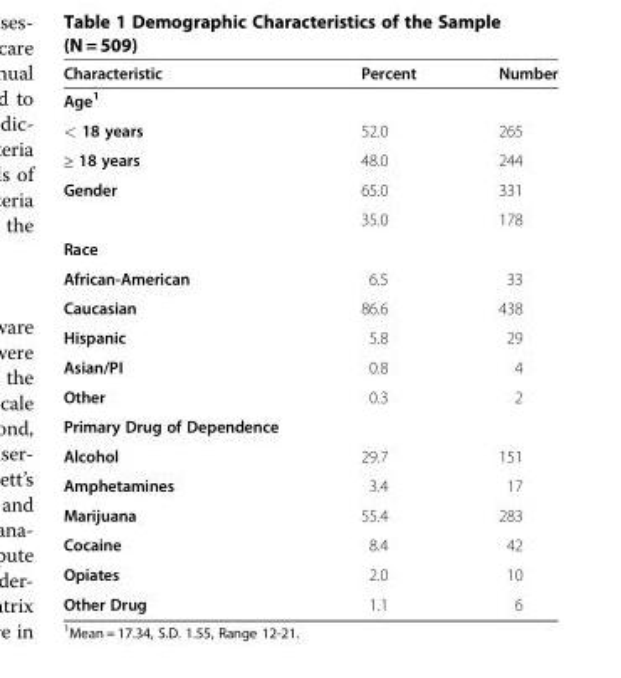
<table><thead><tr><td>Characteristic</td><td>Percent</td><td>Number</td></tr></thead><tbody><tr><td colspan="3">Age<sup>1</sup></td></tr><tr><td>&lt; 18 years</td><td>52.0</td><td>265</td></tr><tr><td>≥ 18 years</td><td>48.0</td><td>244</td></tr><tr><td rowspan="2">Gender</td><td>65.0</td><td>331</td></tr><tr><td>35.0</td><td>178</td></tr><tr><td colspan="3">Race</td></tr><tr><td>African-American</td><td>6.5</td><td>33</td></tr><tr><td>Caucasian</td><td>86.6</td><td>438</td></tr><tr><td>Hispanic</td><td>5.8</td><td>29</td></tr><tr><td>Asian/PI</td><td>0.8</td><td>4</td></tr><tr><td>Other</td><td>0.3</td><td>2</td></tr><tr><td colspan="3">Primary Drug of Dependence</td></tr><tr><td>Alcohol</td><td>29.7</td><td>151</td></tr><tr><td>Amphetamines</td><td>3.4</td><td>17</td></tr><tr><td>Marijuana</td><td>55.4</td><td>283</td></tr><tr><td>Cocaine</td><td>8.4</td><td>42</td></tr><tr><td>Opiates</td><td>2.0</td><td>10</td></tr><tr><td>Other Drug</td><td>1.1</td><td>6</td></tr></tbody></table>